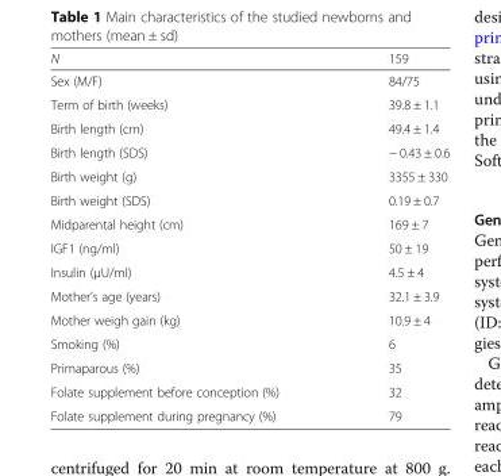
<table><thead><tr><td>N</td><td>159</td></tr></thead><tbody><tr><td>Sex (M/F)</td><td>84/75</td></tr><tr><td>Term of birth (weeks)</td><td>39.8 ± 1.1</td></tr><tr><td>Birth length (cm)</td><td>49.4 ± 1.4</td></tr><tr><td>Birth length (SDS)</td><td>− 0.43 ± 0.6</td></tr><tr><td>Birth weight (g)</td><td>3355 ± 330</td></tr><tr><td>Birth weight (SDS)</td><td>0.19 ± 0.7</td></tr><tr><td>Midparental height (cm)</td><td>169 ± 7</td></tr><tr><td>IGF1 (ng/ml)</td><td>50 ± 19</td></tr><tr><td>Insulin (μU/ml)</td><td>4.5 ± 4</td></tr><tr><td>Mother’s age (years)</td><td>32.1 ± 3.9</td></tr><tr><td>Mother weigh gain (kg)</td><td>10.9 ± 4</td></tr><tr><td>Smoking (%)</td><td>6</td></tr><tr><td>Primaparous (%)</td><td>35</td></tr><tr><td>Folate supplement before conception (%)</td><td>32</td></tr><tr><td>Folate supplement during pregnancy (%)</td><td>79</td></tr></tbody></table>